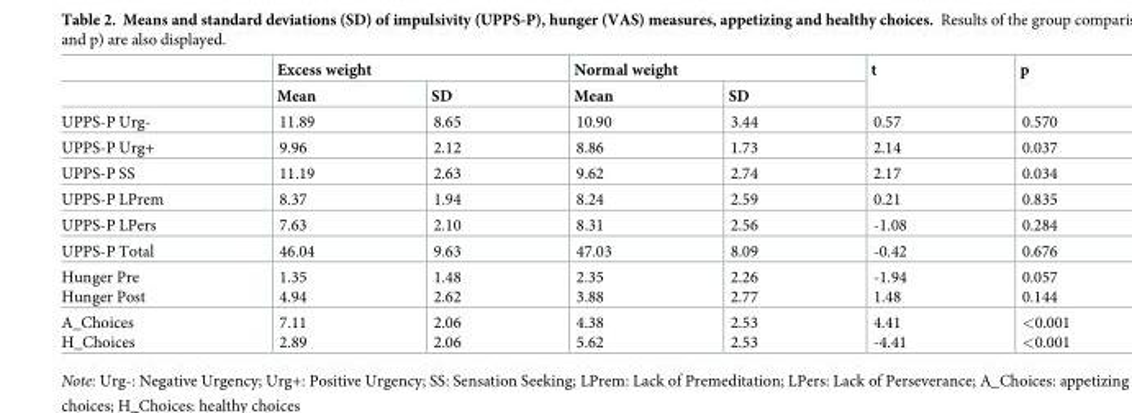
<table><thead><tr><td rowspan="2"></td><td colspan="2">Excess weight</td><td colspan="2">Normal weight</td><td rowspan="2">t</td><td rowspan="2">p</td></tr><tr><td>Mean</td><td>SD</td><td>Mean</td><td>SD</td></tr></thead><tbody><tr><td>UPPS-P Urg-</td><td>11.89</td><td>8.65</td><td>10.90</td><td>3.44</td><td>0.57</td><td>0.570</td></tr><tr><td>UPPS-P Urg+</td><td>9.96</td><td>2.12</td><td>8.86</td><td>1.73</td><td>2.14</td><td>0.037</td></tr><tr><td>UPPS-P SS</td><td>11.19</td><td>2.63</td><td>9.62</td><td>2.74</td><td>2.17</td><td>0.034</td></tr><tr><td>UPPS-P LPrem</td><td>8.37</td><td>1.94</td><td>8.24</td><td>2.59</td><td>0.21</td><td>0.835</td></tr><tr><td>UPPS-P LPers</td><td>7.63</td><td>2.10</td><td>8.31</td><td>2.56</td><td>-1.08</td><td>0.284</td></tr><tr><td>UPPS-P Total</td><td>46.04</td><td>9.63</td><td>47.03</td><td>8.09</td><td>-0.42</td><td>0.676</td></tr><tr><td>Hunger Pre Hunger Post</td><td>1.35 4.94</td><td>1.48 2.62</td><td>2.35 3.88</td><td>2.26 2.77</td><td>-1.94 1.48</td><td>0.057 0.144</td></tr><tr><td>A_Choices H_Choices</td><td>7.11 2.89</td><td>2.06 2.06</td><td>4.38 5.62</td><td>2.53 2.53</td><td>4.41 -4.41</td><td>&lt;0.001 &lt;0.001</td></tr></tbody></table>